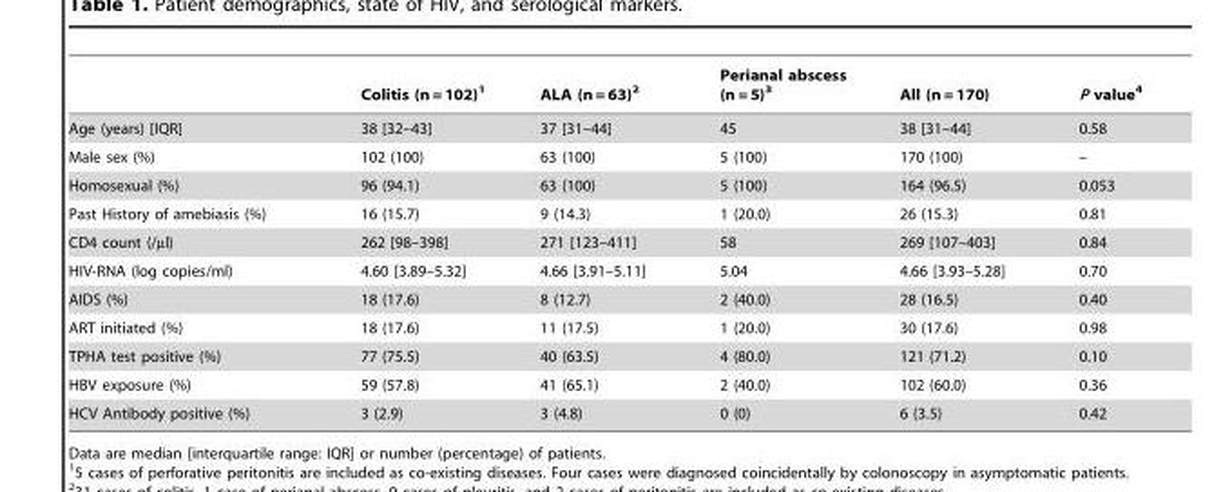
<table><thead><tr><td></td><td>Colitis (n = 102)<sup>1</sup></td><td>ALA (n = 63)<sup>2</sup></td><td>Perianal abscess (n = 5)<sup>3</sup></td><td>All (n = 170)</td><td>P value<sup>4</sup></td></tr></thead><tbody><tr><td>Age (years) [IQR]</td><td>38 [32–43]</td><td>37 [31–44]</td><td>45</td><td>38 [31–44]</td><td>0.58</td></tr><tr><td>Male sex (%)</td><td>102 (100)</td><td>63 (100)</td><td>5 (100)</td><td>170 (100)</td><td>–</td></tr><tr><td>Homosexual (%)</td><td>96 (94.1)</td><td>63 (100)</td><td>5 (100)</td><td>164 (96.5)</td><td>0.053</td></tr><tr><td>Past History of amebiasis (%)</td><td>16 (15.7)</td><td>9 (14.3)</td><td>1 (20.0)</td><td>26 (15.3)</td><td>0.81</td></tr><tr><td>CD4 count (/µl)</td><td>262 [98–398]</td><td>271 [123–411]</td><td>58</td><td>269 [107–403]</td><td>0.84</td></tr><tr><td>HIV-RNA (log copies/ml)</td><td>4.60 [3.89–5.32]</td><td>4.66 [3.91–5.11]</td><td>5.04</td><td>4.66 [3.93–5.28]</td><td>0.70</td></tr><tr><td>AIDS (%)</td><td>18 (17.6)</td><td>8 (12.7)</td><td>2 (40.0)</td><td>28 (16.5)</td><td>0.40</td></tr><tr><td>ART initiated (%)</td><td>18 (17.6)</td><td>11 (17.5)</td><td>1 (20.0)</td><td>30 (17.6)</td><td>0.98</td></tr><tr><td>TPHA test positive (%)</td><td>77 (75.5)</td><td>40 (63.5)</td><td>4 (80.0)</td><td>121 (71.2)</td><td>0.10</td></tr><tr><td>HBV exposure (%)</td><td>59 (57.8)</td><td>41 (65.1)</td><td>2 (40.0)</td><td>102 (60.0)</td><td>0.36</td></tr><tr><td>HCV Antibody positive (%)</td><td>3 (2.9)</td><td>3 (4.8)</td><td>0 (0)</td><td>6 (3.5)</td><td>0.42</td></tr></tbody></table>